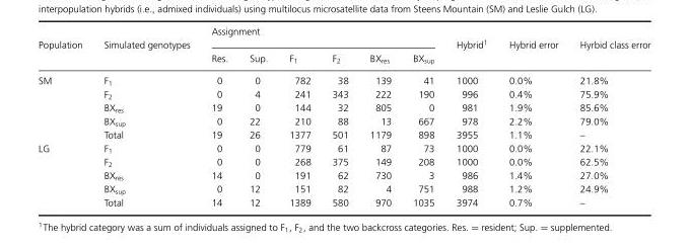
<table><thead><tr><td rowspan="2">Population</td><td rowspan="2">Simulated genotypes</td><td colspan="6"></td><td rowspan="2">Hybrid<sup>1</sup></td><td rowspan="2">Hybrid error</td><td rowspan="2">Hyrbid class error</td></tr><tr><td>Res.</td><td>Sup.</td><td>F<sub>1</sub></td><td>F<sub>2</sub></td><td>BX<sub>res</sub></td><td>BX<sub>sup</sub></td></tr></thead><tbody><tr><td rowspan="5">SM</td><td>F<sub>1</sub></td><td>0</td><td>0</td><td>782</td><td>38</td><td>139</td><td>41</td><td>1000</td><td>0.0%</td><td>21.8%</td></tr><tr><td>F<sub>2</sub></td><td>0</td><td>4</td><td>241</td><td>343</td><td>222</td><td>190</td><td>996</td><td>0.4%</td><td>75.9%</td></tr><tr><td>BX<sub>res</sub></td><td>19</td><td>0</td><td>144</td><td>32</td><td>805</td><td>0</td><td>981</td><td>1.9%</td><td>85.6%</td></tr><tr><td>BX<sub>sup</sub></td><td>0</td><td>22</td><td>210</td><td>88</td><td>13</td><td>667</td><td>978</td><td>2.2%</td><td>79.0%</td></tr><tr><td>Total</td><td>19</td><td>26</td><td>1377</td><td>501</td><td>1179</td><td>898</td><td>3955</td><td>1.1%</td><td>–</td></tr><tr><td rowspan="5">LG</td><td>F<sub>1</sub></td><td>0</td><td>0</td><td>779</td><td>61</td><td>87</td><td>73</td><td>1000</td><td>0.0%</td><td>22.1%</td></tr><tr><td>F<sub>2</sub></td><td>0</td><td>0</td><td>268</td><td>375</td><td>149</td><td>208</td><td>1000</td><td>0.0%</td><td>62.5%</td></tr><tr><td>BX<sub>res</sub></td><td>14</td><td>0</td><td>191</td><td>62</td><td>730</td><td>3</td><td>986</td><td>1.4%</td><td>27.0%</td></tr><tr><td>BX<sub>sup</sub></td><td>0</td><td>12</td><td>151</td><td>82</td><td>4</td><td>751</td><td>988</td><td>1.2%</td><td>24.9%</td></tr><tr><td>Total</td><td>14</td><td>12</td><td>1389</td><td>580</td><td>970</td><td>1035</td><td>3974</td><td>0.7%</td><td>–</td></tr></tbody></table>